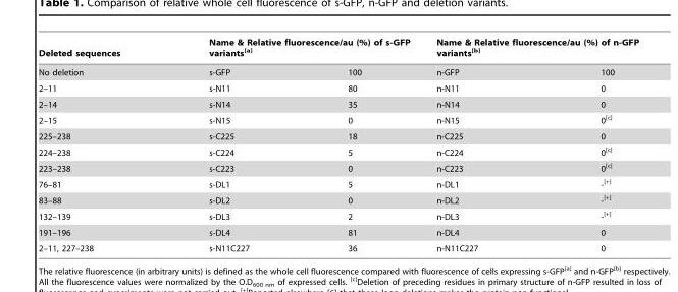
<table><thead><tr><td rowspan="2">Deleted sequences No deletion</td><td colspan="2">Name &amp; Relative fluorescence/au (%) of s-GFP variants<sup>[a]</sup></td><td colspan="2">Name &amp; Relative fluorescence/au (%) of n-GFP variants<sup>[b]</sup></td></tr><tr><td>s-GFP</td><td>100</td><td>n-GFP</td><td>100</td></tr></thead><tbody><tr><td>2–11</td><td>s-N11</td><td>80</td><td>n-N11</td><td>0</td></tr><tr><td>2–14</td><td>s-N14</td><td>35</td><td>n-N14</td><td>0</td></tr><tr><td>2–15</td><td>s-N15</td><td>0</td><td>n-N15</td><td>0<sup>[c]</sup></td></tr><tr><td>225–238</td><td>s-C225</td><td>18</td><td>n-C225</td><td>0</td></tr><tr><td>224–238</td><td>s-C224</td><td>5</td><td>n-C224</td><td>0<sup>[c]</sup></td></tr><tr><td>223–238</td><td>s-C223</td><td>0</td><td>n-C223</td><td>0<sup>[c]</sup></td></tr><tr><td>76–81</td><td>s-DL1</td><td>5</td><td>n-DL1</td><td>-<sup>[+]</sup></td></tr><tr><td>83–88</td><td>s-DL2</td><td>0</td><td>n-DL2</td><td>-<sup>[+]</sup></td></tr><tr><td>132–139</td><td>s-DL3</td><td>2</td><td>n-DL3</td><td>-<sup>[+]</sup></td></tr><tr><td>191–196</td><td>s-DL4</td><td>81</td><td>n-DL4</td><td>0</td></tr><tr><td>2–11, 227–238</td><td>s-N11C227</td><td>36</td><td>n-N11C227</td><td>0</td></tr></tbody></table>